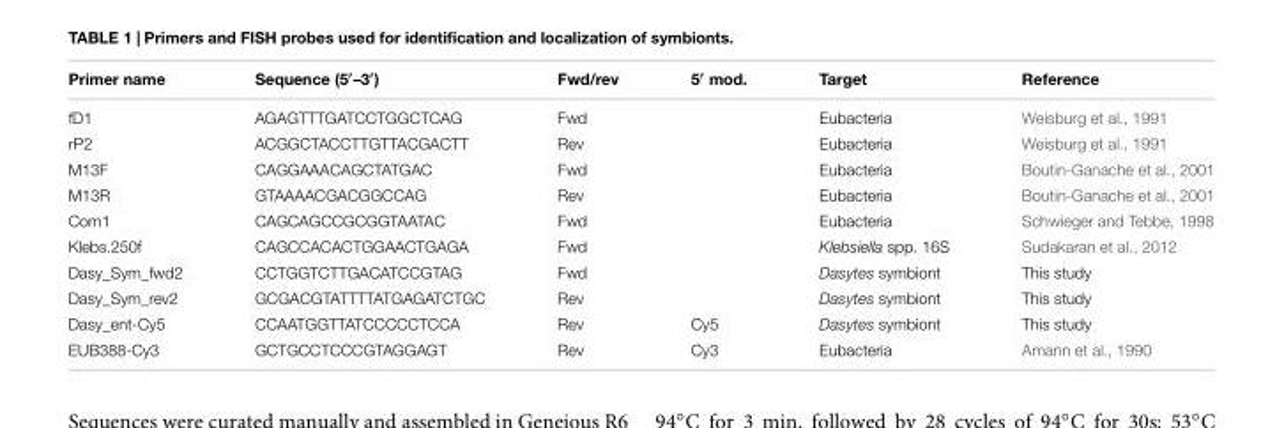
<table><thead><tr><td>Primer name</td><td>Sequence (5′–3′)</td><td>Fwd/rev</td><td>5′ mod.</td><td>Target</td><td>Reference</td></tr></thead><tbody><tr><td>fD1</td><td>AGAGTTTGATCCTGGCTCAG</td><td>Fwd</td><td></td><td>Eubacteria</td><td>Weisburg et al., 1991</td></tr><tr><td>rP2</td><td>ACGGCTACCTTGTTACGACTT</td><td>Rev</td><td></td><td>Eubacteria</td><td>Weisburg et al., 1991</td></tr><tr><td>M13F</td><td>CAGGAAACAGCTATGAC</td><td>Fwd</td><td></td><td>Eubacteria</td><td>Boutin-Ganache et al., 2001</td></tr><tr><td>M13R</td><td>GTAAAACGACGGCCAG</td><td>Rev</td><td></td><td>Eubacteria</td><td>Boutin-Ganache et al., 2001</td></tr><tr><td>Com1</td><td>CAGCAGCCGCGGTAATAC</td><td>Fwd</td><td></td><td>Eubacteria</td><td>Schwieger and Tebbe, 1998</td></tr><tr><td>Klebs.250f</td><td>CAGCCACACTGGAACTGAGA</td><td>Fwd</td><td></td><td>Klebsiella spp. 16S</td><td>Sudakaran et al., 2012</td></tr><tr><td>Dasy_Sym_fwd2</td><td>CCTGGTCTTGACATCCGTAG</td><td>Fwd</td><td></td><td>Dasytes symbiont</td><td>This study</td></tr><tr><td>Dasy_Sym_rev2</td><td>GCGACGTATTTTATGAGATCTGC</td><td>Rev</td><td></td><td>Dasytes symbiont</td><td>This study</td></tr><tr><td>Dasy_ent-Cy5</td><td>CCAATGGTTATCCCCCTCCA</td><td>Rev</td><td>Cy5</td><td>Dasytes symbiont</td><td>This study</td></tr><tr><td>EUB388-Cy3</td><td>GCTGCCTCCCGTAGGAGT</td><td>Rev</td><td>Cy3</td><td>Eubacteria</td><td>Amann et al., 1990</td></tr></tbody></table>